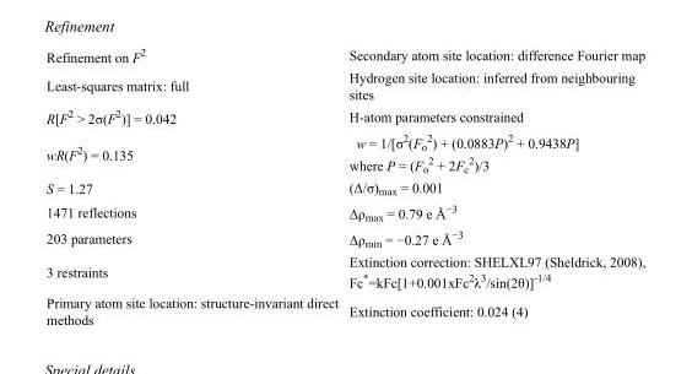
<table><tbody><tr><td>Refinement on F<sup>2</sup></td><td>Secondary atom site location: difference Fourier map</td></tr><tr><td>Least-squares matrix: full</td><td>Hydrogen site location: inferred from neighbouring sites</td></tr><tr><td>R[F<sup>2</sup> &gt; 2σ(F<sup>2</sup>)] = 0.042</td><td>H-atom parameters constrained</td></tr><tr><td>wR(F<sup>2</sup>) = 0.135</td><td>w = 1/[σ<sup>2</sup>(F<sub>o</sub> <sup>2</sup>) + (0.0883P)<sup>2</sup> + 0.9438P] where P = (F<sub>o</sub> <sup>2</sup> + 2F<sub>c</sub> <sup>2</sup>)/3</td></tr><tr><td>S = 1.27</td><td>(Δ/σ)<sub>max</sub> = 0.001</td></tr><tr><td>1471 reflections</td><td>Δρ<sub>max</sub> = 0.79 e Å<sup>−3</sup></td></tr><tr><td>203 parameters</td><td>Δρ<sub>min</sub> = −0.27 e Å<sup>−3</sup></td></tr><tr><td>3 restraints</td><td>Extinction correction: SHELXL97 (Sheldrick, 2008), Fc*=kFc[1+0.001xFc<sup>2</sup>λ<sup>3</sup>/sin(2θ)]<sup>-1/4</sup></td></tr><tr><td>Primary atom site location: structure-invariant direct methods</td><td>Extinction coefficient: 0.024 (4)</td></tr></tbody></table>